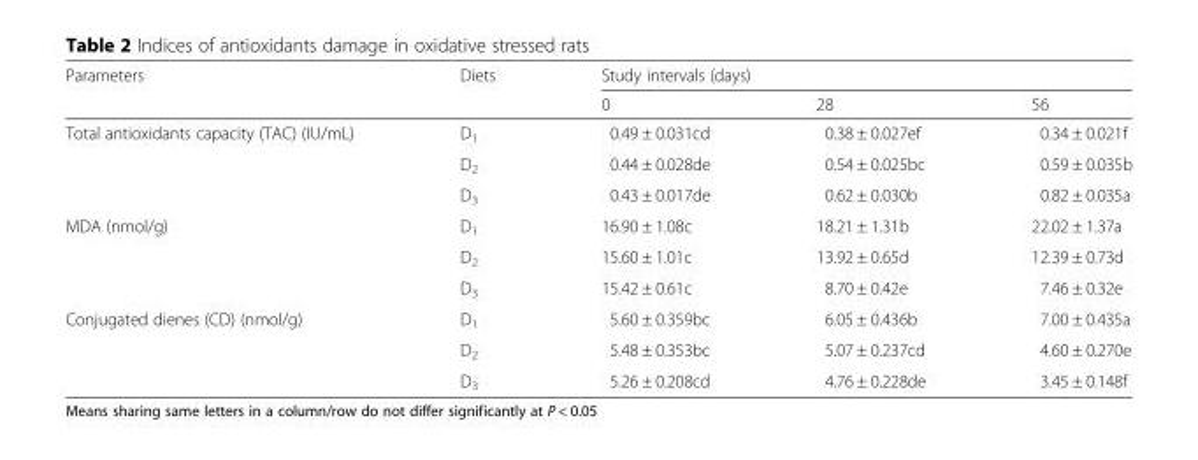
<table><thead><tr><td rowspan="2">Parameters</td><td rowspan="2">Diets</td><td colspan="3">Study intervals (days)</td></tr><tr><td>0</td><td>28</td><td>56</td></tr></thead><tbody><tr><td rowspan="3">Total antioxidants capacity (TAC) (IU/mL)</td><td>D<sub>1</sub></td><td>0.49 ± 0.031cd</td><td>0.38 ± 0.027ef</td><td>0.34 ± 0.021f</td></tr><tr><td>D<sub>2</sub></td><td>0.44 ± 0.028de</td><td>0.54 ± 0.025bc</td><td>0.59 ± 0.035b</td></tr><tr><td>D<sub>3</sub></td><td>0.43 ± 0.017de</td><td>0.62 ± 0.030b</td><td>0.82 ± 0.035a</td></tr><tr><td rowspan="3">MDA (nmol/g)</td><td>D<sub>1</sub></td><td>16.90 ± 1.08c</td><td>18.21 ± 1.31b</td><td>22.02 ± 1.37a</td></tr><tr><td>D<sub>2</sub></td><td>15.60 ± 1.01c</td><td>13.92 ± 0.65d</td><td>12.39 ± 0.73d</td></tr><tr><td>D<sub>3</sub></td><td>15.42 ± 0.61c</td><td>8.70 ± 0.42e</td><td>7.46 ± 0.32e</td></tr><tr><td rowspan="3">Conjugated dienes (CD) (nmol/g)</td><td>D<sub>1</sub></td><td>5.60 ± 0.359bc</td><td>6.05 ± 0.436b</td><td>7.00 ± 0.435a</td></tr><tr><td>D<sub>2</sub></td><td>5.48 ± 0.353bc</td><td>5.07 ± 0.237cd</td><td>4.60 ± 0.270e</td></tr><tr><td>D<sub>3</sub></td><td>5.26 ± 0.208cd</td><td>4.76 ± 0.228de</td><td>3.45 ± 0.148f</td></tr></tbody></table>